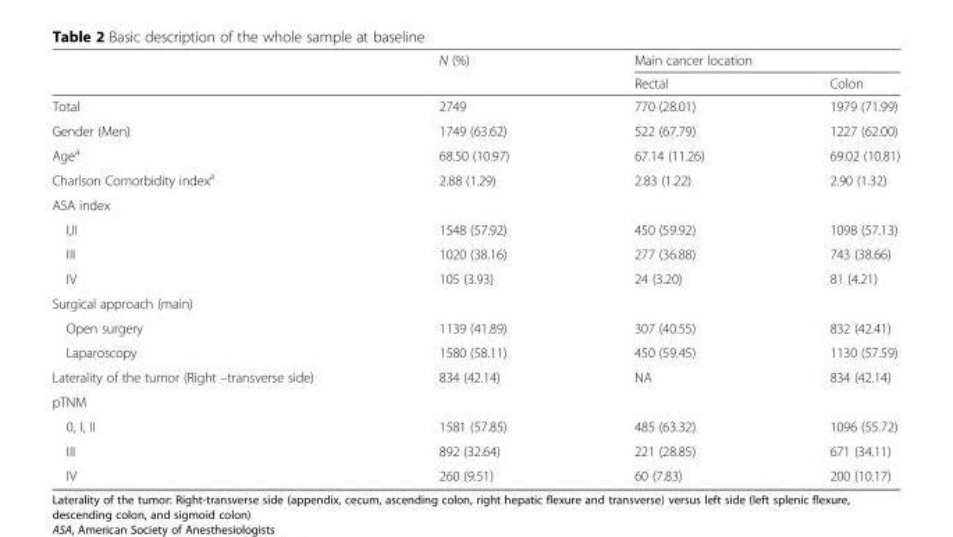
<table><thead><tr><td rowspan="2"></td><td rowspan="2">N (%)</td><td colspan="2">Main cancer location</td></tr><tr><td>Rectal</td><td>Colon</td></tr></thead><tbody><tr><td>Total</td><td>2749</td><td>770 (28.01)</td><td>1979 (71.99)</td></tr><tr><td>Gender (Men)</td><td>1749 (63.62)</td><td>522 (67.79)</td><td>1227 (62.00)</td></tr><tr><td>Age<sup>a</sup></td><td>68.50 (10.97)</td><td>67.14 (11.26)</td><td>69.02 (10.81)</td></tr><tr><td>Charlson Comorbidity index<sup>a</sup></td><td>2.88 (1.29)</td><td>2.83 (1.22)</td><td>2.90 (1.32)</td></tr><tr><td colspan="4">ASA index</td></tr><tr><td>I,II</td><td>1548 (57.92)</td><td>450 (59.92)</td><td>1098 (57.13)</td></tr><tr><td>III</td><td>1020 (38.16)</td><td>277 (36.88)</td><td>743 (38.66)</td></tr><tr><td>IV</td><td>105 (3.93)</td><td>24 (3.20)</td><td>81 (4.21)</td></tr><tr><td colspan="4">Surgical approach (main)</td></tr><tr><td>Open surgery</td><td>1139 (41.89)</td><td>307 (40.55)</td><td>832 (42.41)</td></tr><tr><td>Laparoscopy</td><td>1580 (58.11)</td><td>450 (59.45)</td><td>1130 (57.59)</td></tr><tr><td>Laterality of the tumor (Right –transverse side)</td><td>834 (42.14)</td><td>NA</td><td>834 (42.14)</td></tr><tr><td colspan="4">pTNM</td></tr><tr><td>0, I, II</td><td>1581 (57.85)</td><td>485 (63.32)</td><td>1096 (55.72)</td></tr><tr><td>III</td><td>892 (32.64)</td><td>221 (28.85)</td><td>671 (34.11)</td></tr><tr><td>IV</td><td>260 (9.51)</td><td>60 (7.83)</td><td>200 (10.17)</td></tr></tbody></table>